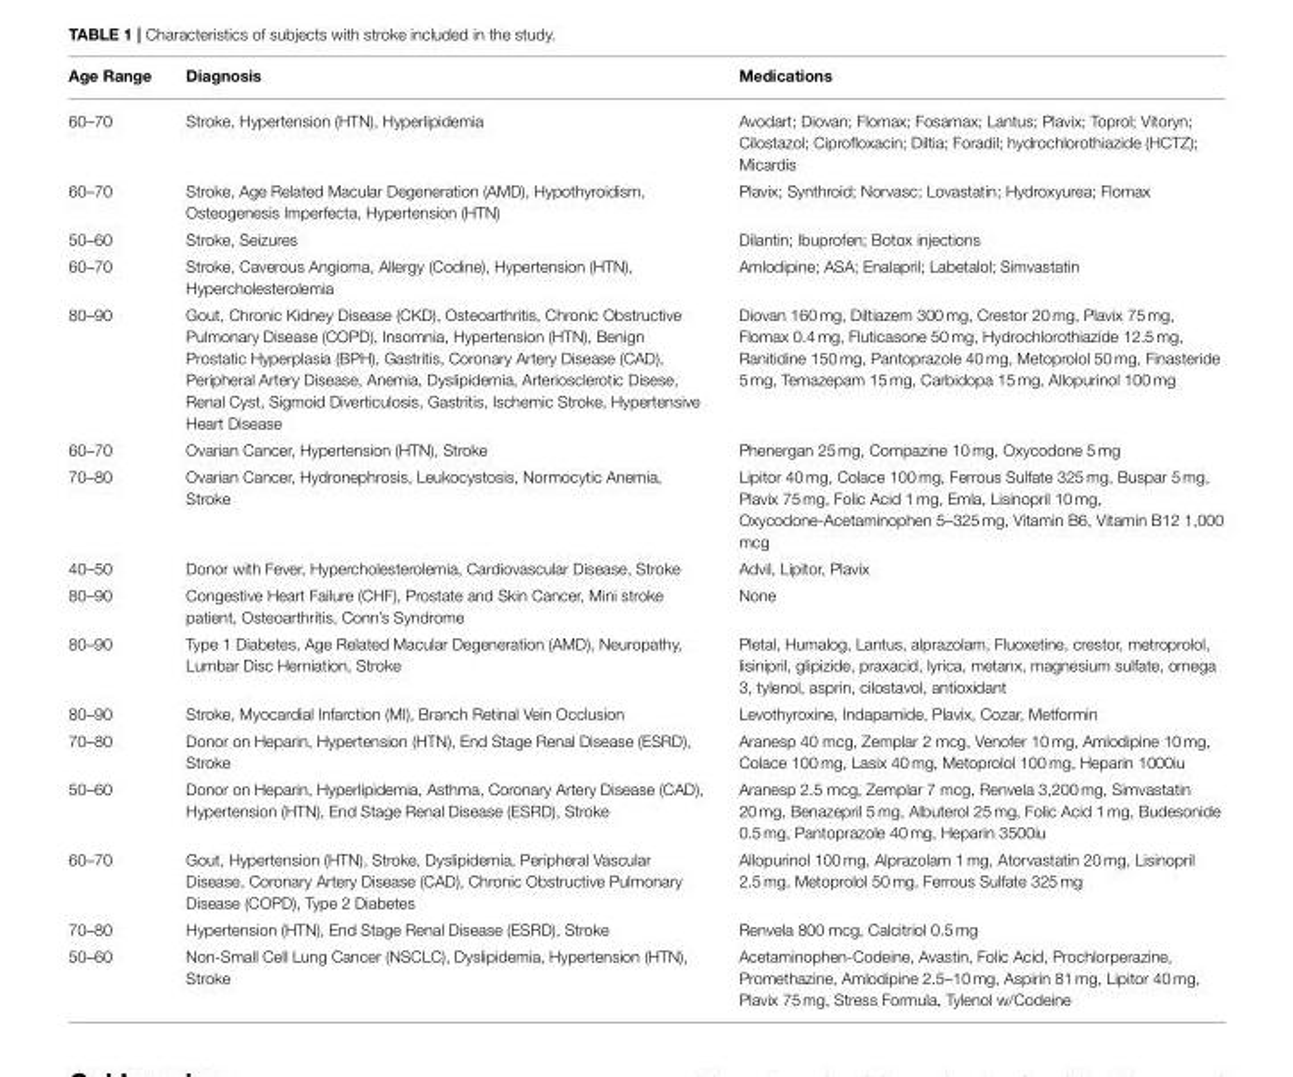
<table><thead><tr><td>Age Range</td><td>Diagnosis</td><td>Medications</td></tr></thead><tbody><tr><td>60–70</td><td>Stroke, Hypertension (HTN), Hyperlipidemia</td><td>Avodart; Diovan; Flomax; Fosamax; Lantus; Plavix; Toprol; Vitoryn; Cilostazol; Ciprofloxacin; Diltia; Foradil; hydrochlorothiazide (HCTZ); Micardis</td></tr><tr><td>60–70</td><td>Stroke, Age Related Macular Degeneration (AMD), Hypothyroidism, Osteogenesis Imperfecta, Hypertension (HTN)</td><td>Plavix; Synthroid; Norvasc; Lovastatin; Hydroxyurea; Flomax</td></tr><tr><td>50–60</td><td>Stroke, Seizures</td><td>Dilantin; Ibuprofen; Botox injections</td></tr><tr><td>60–70</td><td>Stroke, Caverous Angioma, Allergy (Codine), Hypertension (HTN), Hypercholesterolemia</td><td>Amlodipine; ASA; Enalapril; Labetalol; Simvastatin</td></tr><tr><td>80–90</td><td>Gout, Chronic Kidney Disease (CKD), Osteoarthritis, Chronic Obstructive Pulmonary Disease (COPD), Insomnia, Hypertension (HTN), Benign Prostatic Hyperplasia (BPH), Gastritis, Coronary Artery Disease (CAD), Peripheral Artery Disease, Anemia, Dyslipidemia, Arteriosclerotic Disese, Renal Cyst, Sigmoid Diverticulosis, Gastritis, Ischemic Stroke, Hypertensive Heart Disease</td><td>Diovan 160 mg, Diltiazem 300 mg, Crestor 20 mg, Plavix 75 mg, Flomax 0.4 mg, Fluticasone 50 mg, Hydrochlorothiazide 12.5 mg, Ranitidine 150 mg, Pantoprazole 40 mg, Metoprolol 50 mg, Finasteride 5 mg, Temazepam 15 mg, Carbidopa 15 mg, Allopurinol 100 mg</td></tr><tr><td>60–70</td><td>Ovarian Cancer, Hypertension (HTN), Stroke</td><td>Phenergan 25 mg, Compazine 10 mg, Oxycodone 5 mg</td></tr><tr><td>70–80</td><td>Ovarian Cancer, Hydronephrosis, Leukocystosis, Normocytic Anemia, Stroke</td><td>Lipitor 40 mg, Colace 100 mg, Ferrous Sulfate 325 mg, Buspar 5 mg, Plavix 75 mg, Folic Acid 1 mg, Emla, Lisinopril 10 mg, Oxycodone-Acetaminophen 5–325 mg, Vitamin B6, Vitamin B12 1,000 mcg</td></tr><tr><td>40–50</td><td>Donor with Fever, Hypercholesterolemia, Cardiovascular Disease, Stroke</td><td>Advil, Lipitor, Plavix</td></tr><tr><td>80–90</td><td>Congestive Heart Failure (CHF), Prostate and Skin Cancer, Mini stroke patient, Osteoarthritis, Conn’s Syndrome</td><td>None</td></tr><tr><td>80–90</td><td>Type 1 Diabetes, Age Related Macular Degeneration (AMD), Neuropathy, Lumbar Disc Herniation, Stroke</td><td>Pletal, Humalog, Lantus, alprazolam, Fluoxetine, crestor, metroprolol, lisinipril, glipizide, praxacid, lyrica, metanx, magnesium sulfate, omega 3, tylenol, asprin, cilostavol, antioxidant</td></tr><tr><td>80–90</td><td>Stroke, Myocardial Infarction (MI), Branch Retinal Vein Occlusion</td><td>Levothyroxine, Indapamide, Plavix, Cozar, Metformin</td></tr><tr><td>70–80</td><td>Donor on Heparin, Hypertension (HTN), End Stage Renal Disease (ESRD), Stroke</td><td>Aranesp 40 mcg, Zemplar 2 mcg, Venofer 10 mg, Amlodipine 10 mg, Colace 100 mg, Lasix 40 mg, Metoprolol 100 mg, Heparin 1000iu</td></tr><tr><td>50–60</td><td>Donor on Heparin, Hyperlipidemia, Asthma, Coronary Artery Disease (CAD), Hypertension (HTN), End Stage Renal Disease (ESRD), Stroke</td><td>Aranesp 2.5 mcg, Zemplar 7 mcg, Renvela 3,200 mg, Simvastatin 20 mg, Benazepril 5 mg, Albuterol 25 mg, Folic Acid 1 mg, Budesonide 0.5 mg, Pantoprazole 40 mg, Heparin 3500iu</td></tr><tr><td>60–70</td><td>Gout, Hypertension (HTN), Stroke, Dyslipidemia, Peripheral Vascular Disease, Coronary Artery Disease (CAD), Chronic Obstructive Pulmonary Disease (COPD), Type 2 Diabetes</td><td>Allopurinol 100 mg, Alprazolam 1 mg, Atorvastatin 20 mg, Lisinopril 2.5 mg, Metoprolol 50 mg, Ferrous Sulfate 325 mg</td></tr><tr><td>70–80</td><td>Hypertension (HTN), End Stage Renal Disease (ESRD), Stroke</td><td>Renvela 800 mcg, Calcitriol 0.5 mg</td></tr><tr><td>50–60</td><td>Non-Small Cell Lung Cancer (NSCLC), Dyslipidemia, Hypertension (HTN), Stroke</td><td>Acetaminophen-Codeine, Avastin, Folic Acid, Prochlorperazine, Promethazine, Amlodipine 2.5–10 mg, Aspirin 81 mg, Lipitor 40 mg, Plavix 75 mg, Stress Formula, Tylenol w/Codeine</td></tr></tbody></table>